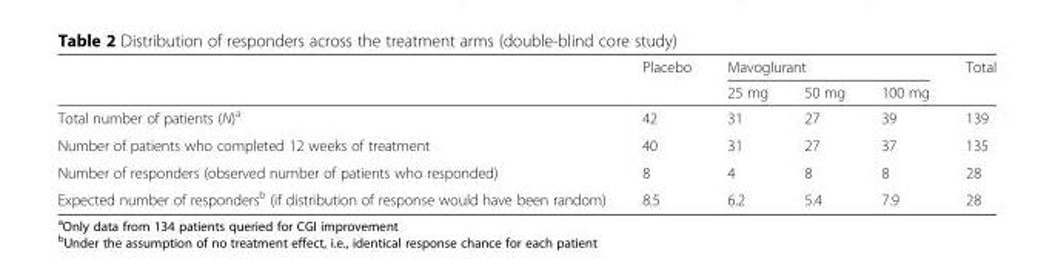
<table><thead><tr><td rowspan="2"></td><td rowspan="2">Placebo</td><td colspan="3">Mavoglurant</td><td rowspan="2">Total</td></tr><tr><td>25 mg</td><td>50 mg</td><td>100 mg</td></tr></thead><tbody><tr><td>Total number of patients (N)<sup>a</sup></td><td>42</td><td>31</td><td>27</td><td>39</td><td>139</td></tr><tr><td>Number of patients who completed 12 weeks of treatment</td><td>40</td><td>31</td><td>27</td><td>37</td><td>135</td></tr><tr><td>Number of responders (observed number of patients who responded)</td><td>8</td><td>4</td><td>8</td><td>8</td><td>28</td></tr><tr><td>Expected number of responders<sup>b</sup> (if distribution of response would have been random)</td><td>8.5</td><td>6.2</td><td>5.4</td><td>7.9</td><td>28</td></tr></tbody></table>